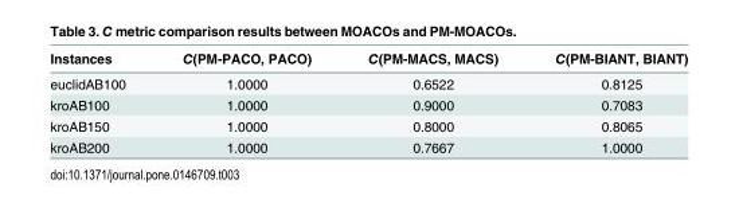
<table><thead><tr><td>Instances</td><td>C(PM-PACO, PACO)</td><td>C(PM-MACS, MACS)</td><td>C(PM-BIANT, BIANT)</td></tr></thead><tbody><tr><td>euclidAB100</td><td>1.0000</td><td>0.6522</td><td>0.8125</td></tr><tr><td>kroAB100</td><td>1.0000</td><td>0.9000</td><td>0.7083</td></tr><tr><td>kroAB150</td><td>1.0000</td><td>0.8000</td><td>0.8065</td></tr><tr><td>kroAB200</td><td>1.0000</td><td>0.7667</td><td>1.0000</td></tr></tbody></table>